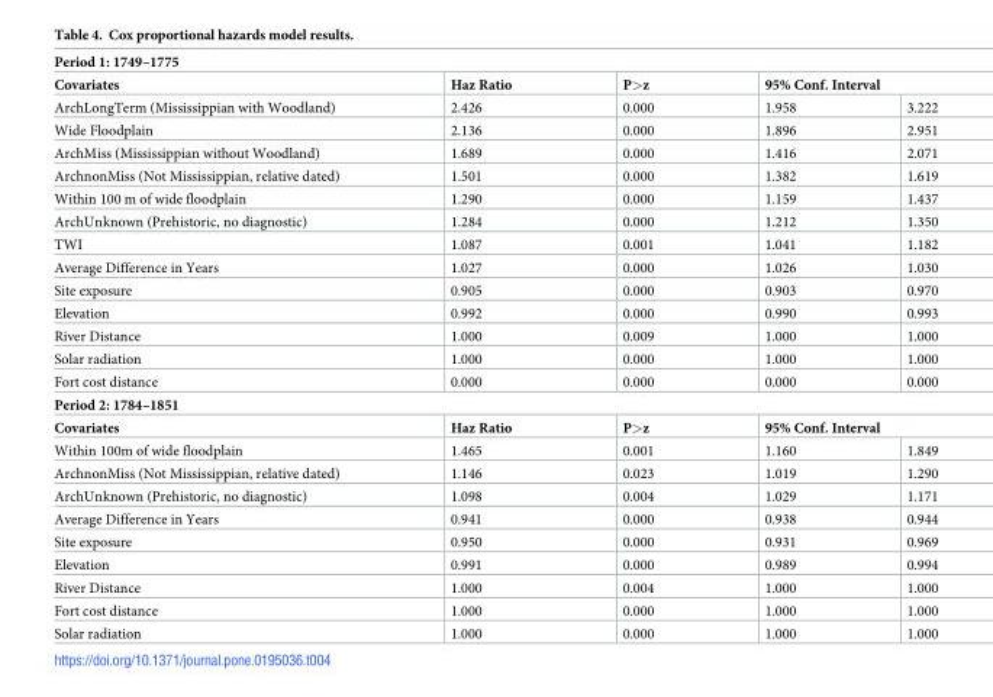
<table><tbody><tr><td colspan="5">Period 1: 1749–1775</td></tr><tr><td>Covariates</td><td>Haz Ratio</td><td>P&gt;z</td><td colspan="2">95% Conf. Interval</td></tr><tr><td>ArchLongTerm (Mississippian with Woodland)</td><td>2.426</td><td>0.000</td><td>1.958</td><td>3.222</td></tr><tr><td>Wide Floodplain</td><td>2.136</td><td>0.000</td><td>1.896</td><td>2.951</td></tr><tr><td>ArchMiss (Mississippian without Woodland)</td><td>1.689</td><td>0.000</td><td>1.416</td><td>2.071</td></tr><tr><td>ArchnonMiss (Not Mississippian, relative dated)</td><td>1.501</td><td>0.000</td><td>1.382</td><td>1.619</td></tr><tr><td>Within 100 m of wide floodplain</td><td>1.290</td><td>0.000</td><td>1.159</td><td>1.437</td></tr><tr><td>ArchUnknown (Prehistoric, no diagnostic)</td><td>1.284</td><td>0.000</td><td>1.212</td><td>1.350</td></tr><tr><td>TWI</td><td>1.087</td><td>0.001</td><td>1.041</td><td>1.182</td></tr><tr><td>Average Difference in Years</td><td>1.027</td><td>0.000</td><td>1.026</td><td>1.030</td></tr><tr><td>Site exposure</td><td>0.905</td><td>0.000</td><td>0.903</td><td>0.970</td></tr><tr><td>Elevation</td><td>0.992</td><td>0.000</td><td>0.990</td><td>0.993</td></tr><tr><td>River Distance</td><td>1.000</td><td>0.009</td><td>1.000</td><td>1.000</td></tr><tr><td>Solar radiation</td><td>1.000</td><td>0.000</td><td>1.000</td><td>1.000</td></tr><tr><td>Fort cost distance</td><td>0.000</td><td>0.000</td><td>0.000</td><td>0.000</td></tr><tr><td colspan="5">Period 2: 1784–1851</td></tr><tr><td>Covariates</td><td>Haz Ratio</td><td>P&gt;z</td><td colspan="2">95% Conf. Interval</td></tr><tr><td>Within 100m of wide floodplain</td><td>1.465</td><td>0.001</td><td>1.160</td><td>1.849</td></tr><tr><td>ArchnonMiss (Not Mississippian, relative dated)</td><td>1.146</td><td>0.023</td><td>1.019</td><td>1.290</td></tr><tr><td>ArchUnknown (Prehistoric, no diagnostic)</td><td>1.098</td><td>0.004</td><td>1.029</td><td>1.171</td></tr><tr><td>Average Difference in Years</td><td>0.941</td><td>0.000</td><td>0.938</td><td>0.944</td></tr><tr><td>Site exposure</td><td>0.950</td><td>0.000</td><td>0.931</td><td>0.969</td></tr><tr><td>Elevation</td><td>0.991</td><td>0.000</td><td>0.989</td><td>0.994</td></tr><tr><td>River Distance</td><td>1.000</td><td>0.004</td><td>1.000</td><td>1.000</td></tr><tr><td>Fort cost distance</td><td>1.000</td><td>0.000</td><td>1.000</td><td>1.000</td></tr><tr><td>Solar radiation</td><td>1.000</td><td>0.000</td><td>1.000</td><td>1.000</td></tr></tbody></table>